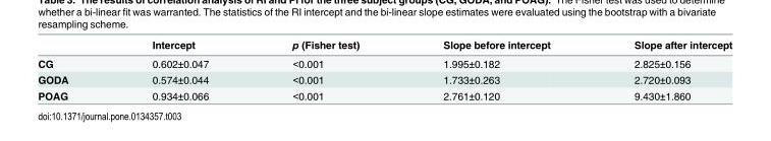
<table><thead><tr><td></td><td>Intercept</td><td>p (Fisher test)</td><td>Slope before intercept</td><td>Slope after intercept</td></tr></thead><tbody><tr><td>CG</td><td>0.602±0.047</td><td>&lt;0.001</td><td>1.995±0.182</td><td>2.825±0.156</td></tr><tr><td>GODA</td><td>0.574±0.044</td><td>&lt;0.001</td><td>1.733±0.263</td><td>2.720±0.093</td></tr><tr><td>POAG</td><td>0.934±0.066</td><td>&lt;0.001</td><td>2.761±0.120</td><td>9.430±1.860</td></tr></tbody></table>